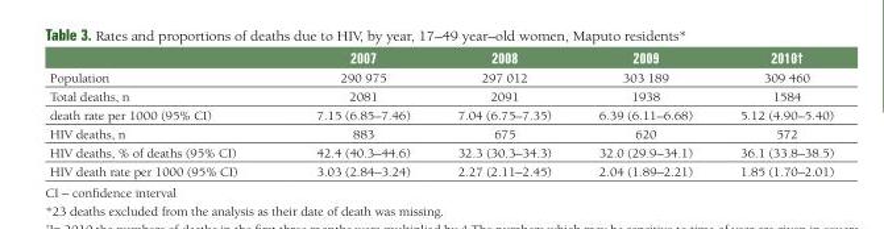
<table><thead><tr><td></td><td>2007</td><td>2008</td><td>2009</td><td>2010†</td></tr></thead><tbody><tr><td>Population</td><td>290 975</td><td>297 012</td><td>303 189</td><td>309 460</td></tr><tr><td>Total deaths, n</td><td>2081</td><td>2091</td><td>1938</td><td>1584</td></tr><tr><td>death rate per 1000 (95% CI)</td><td>7.15 (6.85–7.46)</td><td>7.04 (6.75–7.35)</td><td>6.39 (6.11–6.68)</td><td>5.12 (4.90–5.40)</td></tr><tr><td>HIV deaths, n</td><td>883</td><td>675</td><td>620</td><td>572</td></tr><tr><td>HIV deaths, % of deaths (95% CI)</td><td>42.4 (40.3–44.6)</td><td>32.3 (30.3–34.3)</td><td>32.0 (29.9–34.1)</td><td>36.1 (33.8–38.5)</td></tr><tr><td>HIV death rate per 1000 (95% CI)</td><td>3.03 (2.84–3.24)</td><td>2.27 (2.11–2.45)</td><td>2.04 (1.89–2.21)</td><td>1.85 (1.70–2.01)</td></tr></tbody></table>